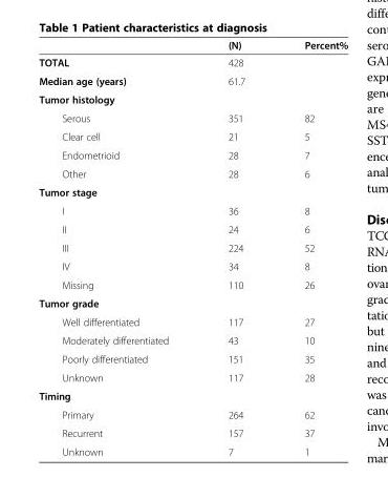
<table><thead><tr><td></td><td>(N)</td><td>Percent%</td></tr></thead><tbody><tr><td>TOTAL</td><td>428</td><td></td></tr><tr><td>Median age (years)</td><td>61.7</td><td></td></tr><tr><td colspan="3">Tumor histology</td></tr><tr><td>Serous</td><td>351</td><td>82</td></tr><tr><td>Clear cell</td><td>21</td><td>5</td></tr><tr><td>Endometrioid</td><td>28</td><td>7</td></tr><tr><td>Other</td><td>28</td><td>6</td></tr><tr><td colspan="3">Tumor stage</td></tr><tr><td>I</td><td>36</td><td>8</td></tr><tr><td>II</td><td>24</td><td>6</td></tr><tr><td>III</td><td>224</td><td>52</td></tr><tr><td>IV</td><td>34</td><td>8</td></tr><tr><td>Missing</td><td>110</td><td>26</td></tr><tr><td colspan="3">Tumor grade</td></tr><tr><td>Well differentiated</td><td>117</td><td>27</td></tr><tr><td>Moderately differentiated</td><td>43</td><td>10</td></tr><tr><td>Poorly differentiated</td><td>151</td><td>35</td></tr><tr><td>Unknown</td><td>117</td><td>28</td></tr><tr><td colspan="3">Timing</td></tr><tr><td>Primary</td><td>264</td><td>62</td></tr><tr><td>Recurrent</td><td>157</td><td>37</td></tr><tr><td>Unknown</td><td>7</td><td>1</td></tr></tbody></table>